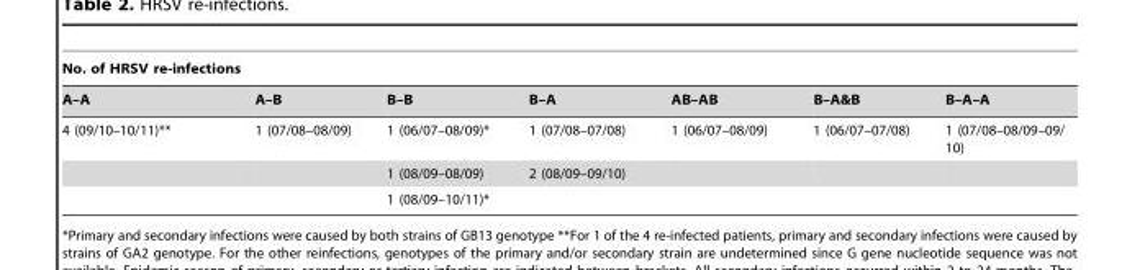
<table><thead><tr><td colspan="7">No. of HRSV re-infections</td></tr><tr><td>A–A</td><td>A–B</td><td>B–B</td><td>B–A</td><td>AB–AB</td><td>B–A&amp;B</td><td>B–A–A</td></tr></thead><tbody><tr><td rowspan="3">4 (09/10–10/11)**</td><td>1 (07/08–08/09)</td><td>1 (06/07–08/09)*</td><td>1 (07/08–07/08)</td><td>1 (06/07–08/09)</td><td>1 (06/07–07/08)</td><td>1 (07/08–08/09–09/ 10)</td></tr><tr><td></td><td>1 (08/09–08/09)</td><td>2 (08/09–09/10)</td><td></td><td></td><td></td></tr><tr><td></td><td>1 (08/09–10/11)*</td><td></td><td></td><td></td><td></td></tr></tbody></table>